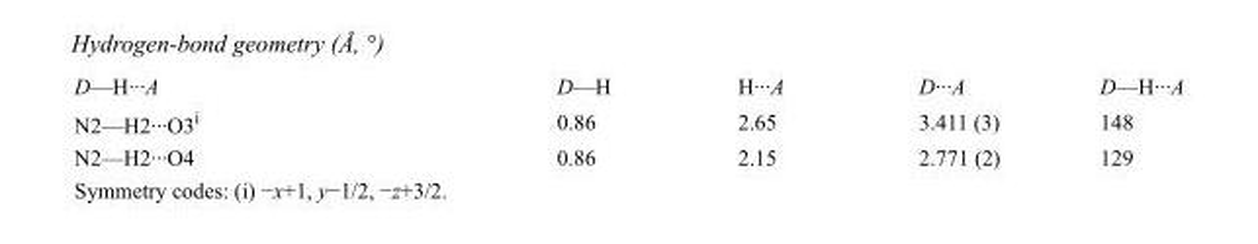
<table><tbody><tr><td>D—H···A</td><td>D—H</td><td>H···A</td><td>D···A</td><td>D—H···A</td></tr><tr><td>N2—H2···O3<sup>i</sup></td><td>0.86</td><td>2.65</td><td>3.411 (3)</td><td>148</td></tr><tr><td>N2—H2···O4</td><td>0.86</td><td>2.15</td><td>2.771 (2)</td><td>129</td></tr></tbody></table>